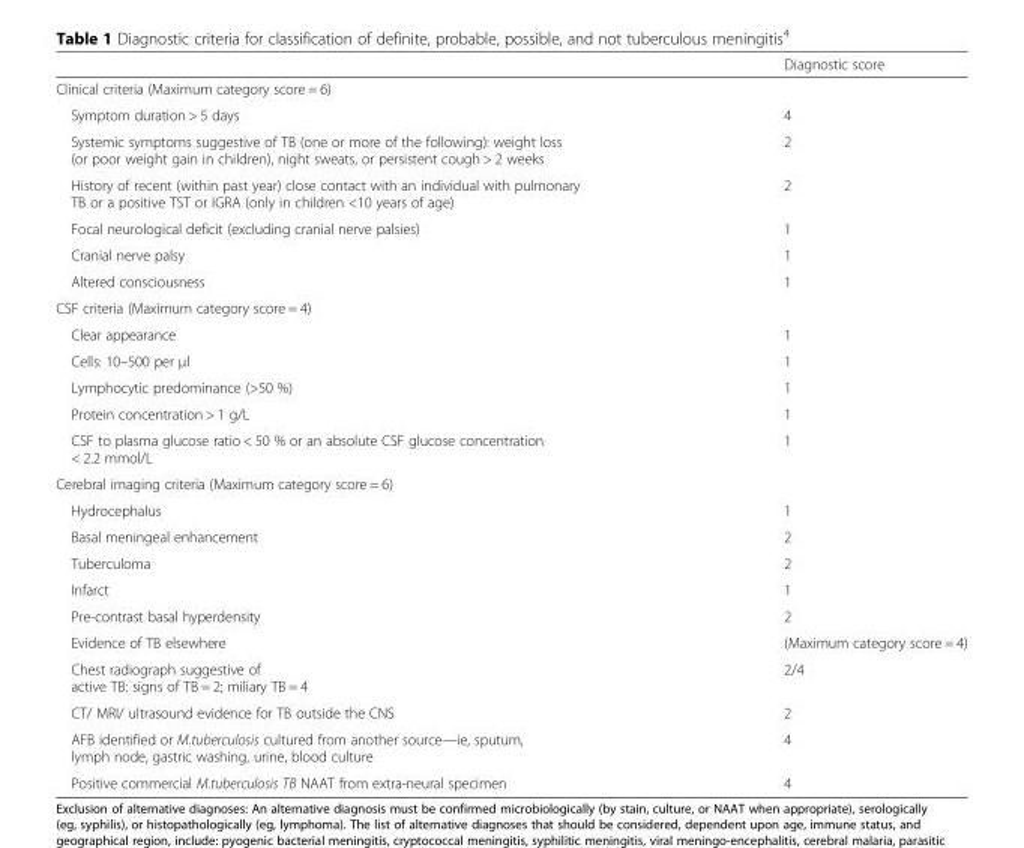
<table><thead><tr><td></td><td>Diagnostic score</td></tr></thead><tbody><tr><td colspan="2">Clinical criteria (Maximum category score = 6)</td></tr><tr><td>Symptom duration &gt; 5 days</td><td>4</td></tr><tr><td>Systemic symptoms suggestive of TB (one or more of the following): weight loss (or poor weight gain in children), night sweats, or persistent cough &gt; 2 weeks</td><td>2</td></tr><tr><td>History of recent (within past year) close contact with an individual with pulmonary TB or a positive TST or IGRA (only in children &lt;10 years of age)</td><td>2</td></tr><tr><td>Focal neurological deficit (excluding cranial nerve palsies)</td><td>1</td></tr><tr><td>Cranial nerve palsy</td><td>1</td></tr><tr><td>Altered consciousness</td><td>1</td></tr><tr><td colspan="2">CSF criteria (Maximum category score = 4)</td></tr><tr><td>Clear appearance</td><td>1</td></tr><tr><td>Cells: 10–500 per μl</td><td>1</td></tr><tr><td>Lymphocytic predominance (&gt;50 %)</td><td>1</td></tr><tr><td>Protein concentration &gt; 1 g/L</td><td>1</td></tr><tr><td>CSF to plasma glucose ratio &lt; 50 % or an absolute CSF glucose concentration &lt; 2.2 mmol/L</td><td>1</td></tr><tr><td colspan="2">Cerebral imaging criteria (Maximum category score = 6)</td></tr><tr><td>Hydrocephalus</td><td>1</td></tr><tr><td>Basal meningeal enhancement</td><td>2</td></tr><tr><td>Tuberculoma</td><td>2</td></tr><tr><td>Infarct</td><td>1</td></tr><tr><td>Pre-contrast basal hyperdensity</td><td>2</td></tr><tr><td>Evidence of TB elsewhere</td><td>(Maximum category score = 4)</td></tr><tr><td>Chest radiograph suggestive of active TB: signs of TB = 2; miliary TB = 4</td><td>2/4</td></tr><tr><td>CT/ MRI/ ultrasound evidence for TB outside the CNS</td><td>2</td></tr><tr><td>AFB identified or M.tuberculosis cultured from another source—ie, sputum, lymph node, gastric washing, urine, blood culture</td><td>4</td></tr><tr><td>Positive commercial M.tuberculosis TB NAAT from extra-neural specimen</td><td>4</td></tr></tbody></table>